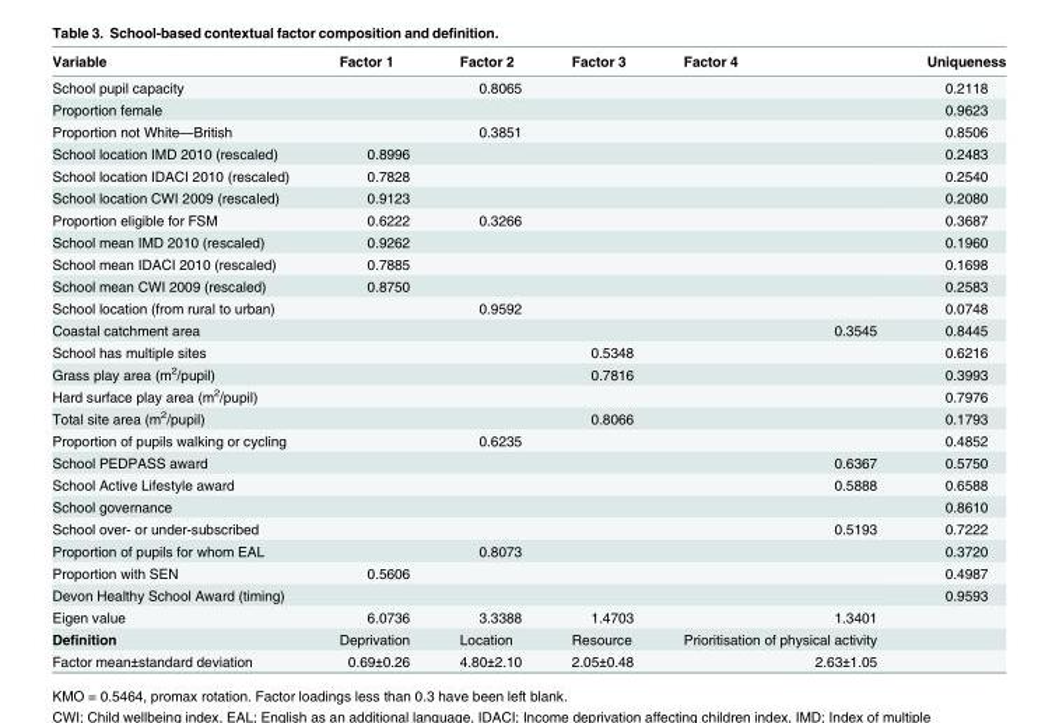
<table><thead><tr><td>Variable</td><td>Factor 1</td><td>Factor 2</td><td>Factor 3</td><td>Factor 4</td><td>Uniqueness</td></tr></thead><tbody><tr><td>School pupil capacity</td><td></td><td>0.8065</td><td></td><td></td><td>0.2118</td></tr><tr><td>Proportion female</td><td></td><td></td><td></td><td></td><td>0.9623</td></tr><tr><td>Proportion not White—British</td><td></td><td>0.3851</td><td></td><td></td><td>0.8506</td></tr><tr><td>School location IMD 2010 (rescaled)</td><td>0.8996</td><td></td><td></td><td></td><td>0.2483</td></tr><tr><td>School location IDACI 2010 (rescaled)</td><td>0.7828</td><td></td><td></td><td></td><td>0.2540</td></tr><tr><td>School location CWI 2009 (rescaled)</td><td>0.9123</td><td></td><td></td><td></td><td>0.2080</td></tr><tr><td>Proportion eligible for FSM</td><td>0.6222</td><td>0.3266</td><td></td><td></td><td>0.3687</td></tr><tr><td>School mean IMD 2010 (rescaled)</td><td>0.9262</td><td></td><td></td><td></td><td>0.1960</td></tr><tr><td>School mean IDACI 2010 (rescaled)</td><td>0.7885</td><td></td><td></td><td></td><td>0.1698</td></tr><tr><td>School mean CWI 2009 (rescaled)</td><td>0.8750</td><td></td><td></td><td></td><td>0.2583</td></tr><tr><td>School location (from rural to urban)</td><td></td><td>0.9592</td><td></td><td></td><td>0.0748</td></tr><tr><td>Coastal catchment area</td><td></td><td></td><td></td><td>0.3545</td><td>0.8445</td></tr><tr><td>School has multiple sites</td><td></td><td></td><td>0.5348</td><td></td><td>0.6216</td></tr><tr><td>Grass play area (m<sup>2</sup>/pupil)</td><td></td><td></td><td>0.7816</td><td></td><td>0.3993</td></tr><tr><td>Hard surface play area (m<sup>2</sup>/pupil)</td><td></td><td></td><td></td><td></td><td>0.7976</td></tr><tr><td>Total site area (m<sup>2</sup>/pupil)</td><td></td><td></td><td>0.8066</td><td></td><td>0.1793</td></tr><tr><td>Proportion of pupils walking or cycling</td><td></td><td>0.6235</td><td></td><td></td><td>0.4852</td></tr><tr><td>School PEDPASS award</td><td></td><td></td><td></td><td>0.6367</td><td>0.5750</td></tr><tr><td>School Active Lifestyle award</td><td></td><td></td><td></td><td>0.5888</td><td>0.6588</td></tr><tr><td>School governance</td><td></td><td></td><td></td><td></td><td>0.8610</td></tr><tr><td>School over- or under-subscribed</td><td></td><td></td><td></td><td>0.5193</td><td>0.7222</td></tr><tr><td>Proportion of pupils for whom EAL</td><td></td><td>0.8073</td><td></td><td></td><td>0.3720</td></tr><tr><td>Proportion with SEN</td><td>0.5606</td><td></td><td></td><td></td><td>0.4987</td></tr><tr><td>Devon Healthy School Award (timing)</td><td></td><td></td><td></td><td></td><td>0.9593</td></tr><tr><td>Eigen value</td><td>6.0736</td><td>3.3388</td><td>1.4703</td><td>1.3401</td><td></td></tr><tr><td>Definition</td><td>Deprivation</td><td>Location</td><td>Resource</td><td>Prioritisation of physical activity</td><td></td></tr><tr><td>Factor mean±standard deviation</td><td>0.69±0.26</td><td>4.80±2.10</td><td>2.05±0.48</td><td>2.63±1.05</td><td></td></tr></tbody></table>